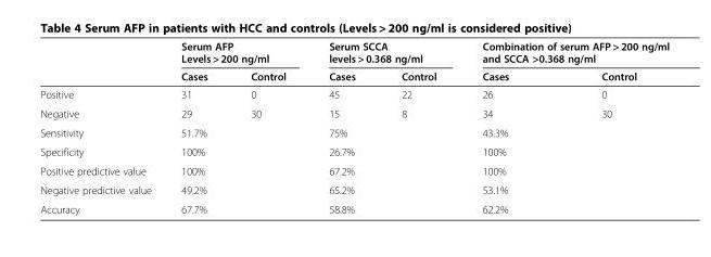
<table><thead><tr><td rowspan="2"></td><td colspan="2">Serum AFP Levels &gt; 200 ng/ml</td><td colspan="2">Serum SCCA levels &gt; 0.368 ng/ml</td><td colspan="2">Combination of serum AFP &gt; 200 ng/ml and SCCA &gt;0.368 ng/ml</td></tr><tr><td>Cases</td><td>Control</td><td>Cases</td><td>Control</td><td>Cases</td><td>Control</td></tr></thead><tbody><tr><td>Positive</td><td>31</td><td>0</td><td>45</td><td>22</td><td>26</td><td>0</td></tr><tr><td>Negative</td><td>29</td><td>30</td><td>15</td><td>8</td><td>34</td><td>30</td></tr><tr><td>Sensitivity</td><td colspan="2">51.7%</td><td colspan="2">75%</td><td colspan="2">43.3%</td></tr><tr><td>Specificity</td><td colspan="2">100%</td><td colspan="2">26.7%</td><td colspan="2">100%</td></tr><tr><td>Positive predictive value</td><td colspan="2">100%</td><td colspan="2">67.2%</td><td colspan="2">100%</td></tr><tr><td>Negative predictive value</td><td colspan="2">49.2%</td><td colspan="2">65.2%</td><td colspan="2">53.1%</td></tr><tr><td>Accuracy</td><td colspan="2">67.7%</td><td colspan="2">58.8%</td><td colspan="2">62.2%</td></tr></tbody></table>